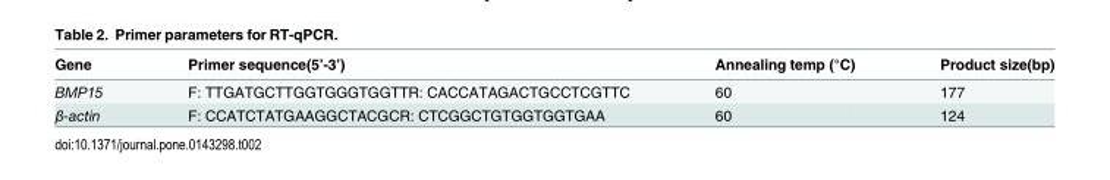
<table><thead><tr><td>Gene</td><td>Primer sequence(5’-3’)</td><td>Annealing temp (°C)</td><td>Product size(bp)</td></tr></thead><tbody><tr><td>BMP15</td><td>F: TTGATGCTTGGTGGGTGGTTR: CACCATAGACTGCCTCGTTC</td><td>60</td><td>177</td></tr><tr><td>β-actin</td><td>F: CCATCTATGAAGGCTACGCR: CTCGGCTGTGGTGGTGAA</td><td>60</td><td>124</td></tr></tbody></table>